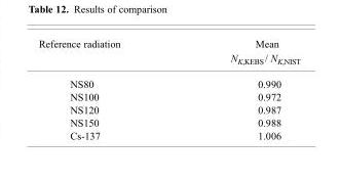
<table><thead><tr><td>Reference radiation</td><td>Mean N<sub>K,KEBS</sub>/ N<sub>K,NIST</sub></td></tr></thead><tbody><tr><td>NS80</td><td>0.990</td></tr><tr><td>NS100</td><td>0.972</td></tr><tr><td>NS120</td><td>0.987</td></tr><tr><td>NS150</td><td>0.988</td></tr><tr><td>Cs-137</td><td>1.006</td></tr></tbody></table>